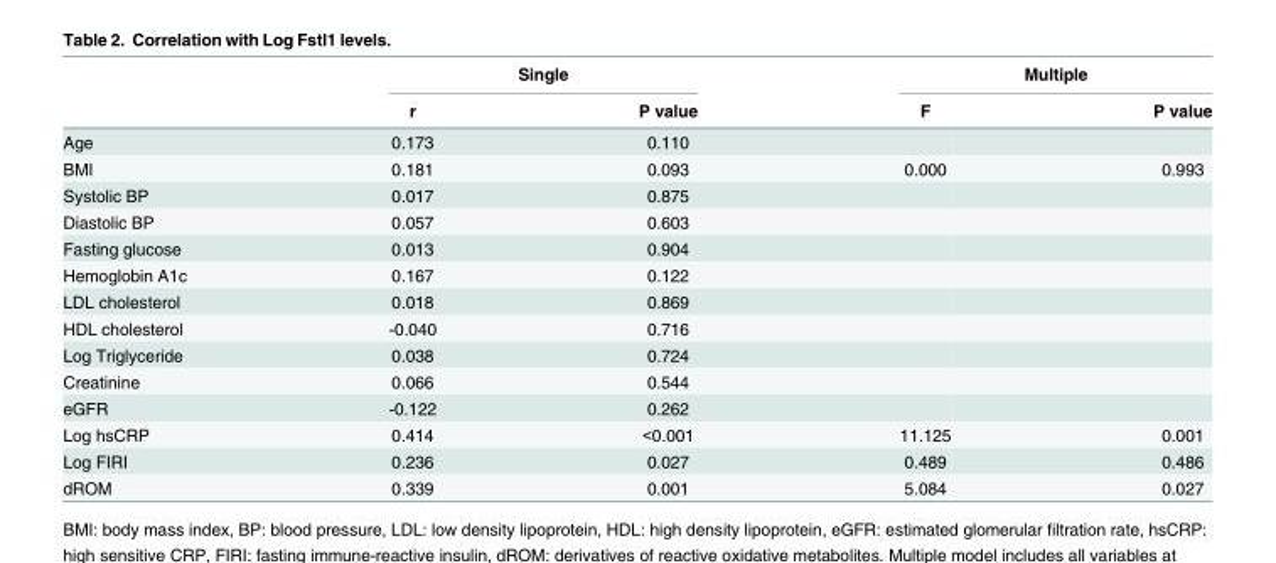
<table><thead><tr><td rowspan="2"></td><td colspan="2">Single</td><td colspan="2">Multiple</td></tr><tr><td>r</td><td>P value</td><td>F</td><td>P value</td></tr></thead><tbody><tr><td>Age</td><td>0.173</td><td>0.110</td><td></td><td></td></tr><tr><td>BMI</td><td>0.181</td><td>0.093</td><td>0.000</td><td>0.993</td></tr><tr><td>Systolic BP</td><td>0.017</td><td>0.875</td><td></td><td></td></tr><tr><td>Diastolic BP</td><td>0.057</td><td>0.603</td><td></td><td></td></tr><tr><td>Fasting glucose</td><td>0.013</td><td>0.904</td><td></td><td></td></tr><tr><td>Hemoglobin A1c</td><td>0.167</td><td>0.122</td><td></td><td></td></tr><tr><td>LDL cholesterol</td><td>0.018</td><td>0.869</td><td></td><td></td></tr><tr><td>HDL cholesterol</td><td>-0.040</td><td>0.716</td><td></td><td></td></tr><tr><td>Log Triglyceride</td><td>0.038</td><td>0.724</td><td></td><td></td></tr><tr><td>Creatinine</td><td>0.066</td><td>0.544</td><td></td><td></td></tr><tr><td>eGFR</td><td>-0.122</td><td>0.262</td><td></td><td></td></tr><tr><td>Log hsCRP</td><td>0.414</td><td>&lt;0.001</td><td>11.125</td><td>0.001</td></tr><tr><td>Log FIRI</td><td>0.236</td><td>0.027</td><td>0.489</td><td>0.486</td></tr><tr><td>dROM</td><td>0.339</td><td>0.001</td><td>5.084</td><td>0.027</td></tr></tbody></table>